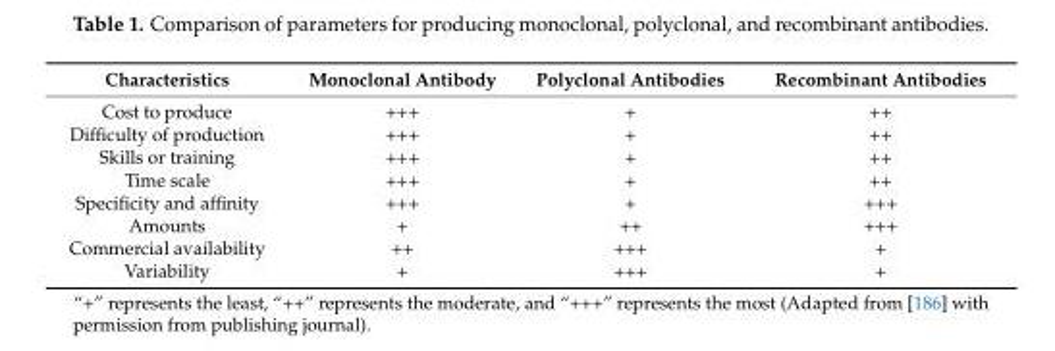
<table><thead><tr><td>Characteristics</td><td>Monoclonal Antibody</td><td>Polyclonal Antibodies</td><td>Recombinant Antibodies</td></tr></thead><tbody><tr><td>Cost to produce</td><td>+++</td><td>+</td><td>++</td></tr><tr><td>Difficulty of production</td><td>+++</td><td>+</td><td>++</td></tr><tr><td>Skills or training</td><td>+++</td><td>+</td><td>++</td></tr><tr><td>Time scale</td><td>+++</td><td>+</td><td>++</td></tr><tr><td>Specificity and affinity</td><td>+++</td><td>+</td><td>+++</td></tr><tr><td>Amounts</td><td>+</td><td>++</td><td>+++</td></tr><tr><td>Commercial availability</td><td>++</td><td>+++</td><td>+</td></tr><tr><td>Variability</td><td>+</td><td>+++</td><td>+</td></tr></tbody></table>